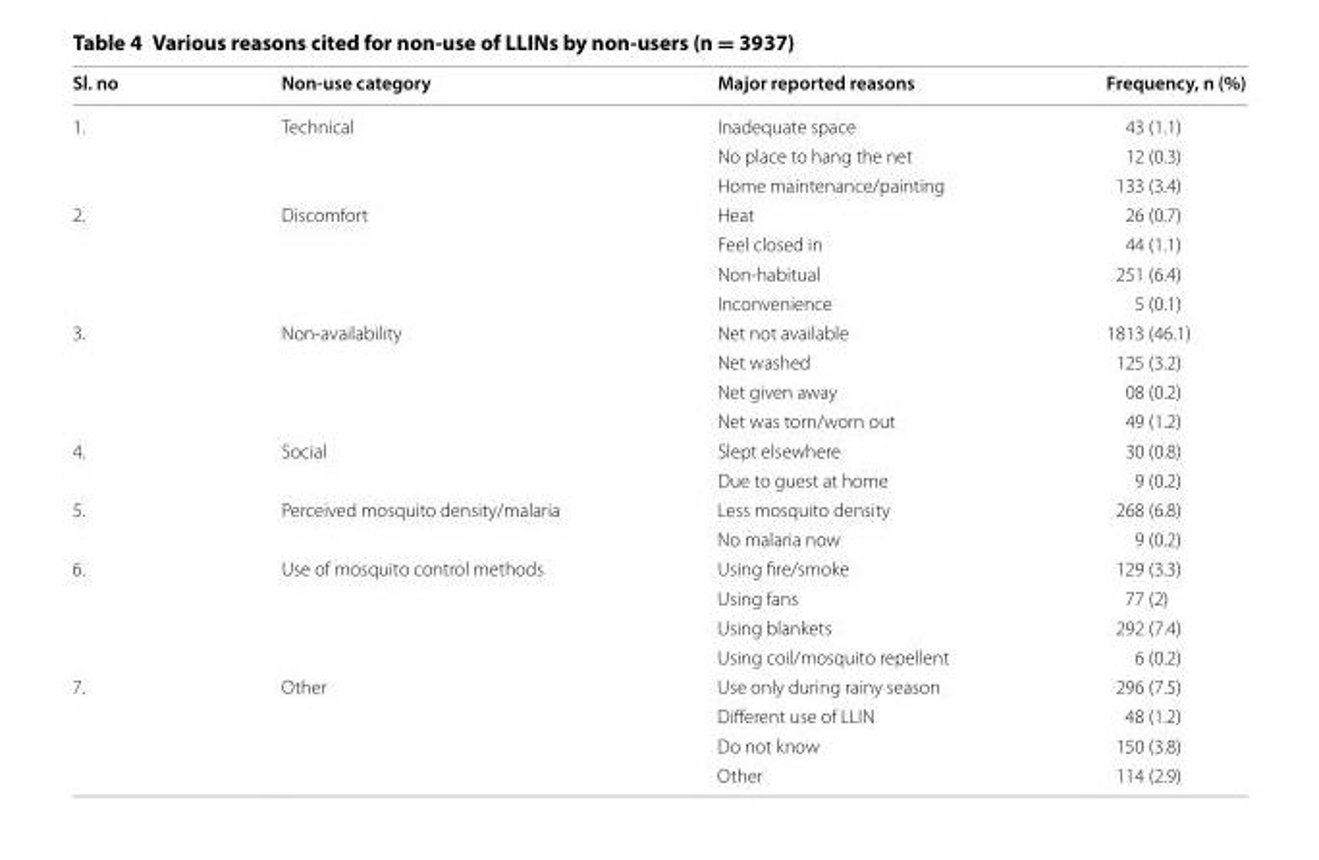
<table><thead><tr><td>Sl. no</td><td>Non‑use category</td><td>Major reported reasons</td><td>Frequency, n (%)</td></tr></thead><tbody><tr><td rowspan="3">1.</td><td rowspan="3">Technical</td><td>Inadequate space</td><td>43 (1.1)</td></tr><tr><td>No place to hang the net</td><td>12 (0.3)</td></tr><tr><td>Home maintenance/painting</td><td>133 (3.4)</td></tr><tr><td rowspan="4">2.</td><td rowspan="4">Discomfort</td><td>Heat</td><td>26 (0.7)</td></tr><tr><td>Feel closed in</td><td>44 (1.1)</td></tr><tr><td>Non-habitual</td><td>251 (6.4)</td></tr><tr><td>Inconvenience</td><td>5 (0.1)</td></tr><tr><td rowspan="4">3.</td><td rowspan="4">Non-availability</td><td>Net not available</td><td>1813 (46.1)</td></tr><tr><td>Net washed</td><td>125 (3.2)</td></tr><tr><td>Net given away</td><td>08 (0.2)</td></tr><tr><td>Net was torn/worn out</td><td>49 (1.2)</td></tr><tr><td rowspan="2">4.</td><td rowspan="2">Social</td><td>Slept elsewhere</td><td>30 (0.8)</td></tr><tr><td>Due to guest at home</td><td>9 (0.2)</td></tr><tr><td rowspan="2">5.</td><td rowspan="2">Perceived mosquito density/malaria</td><td>Less mosquito density</td><td>268 (6.8)</td></tr><tr><td>No malaria now</td><td>9 (0.2)</td></tr><tr><td rowspan="4">6.</td><td rowspan="4">Use of mosquito control methods</td><td>Using fire/smoke</td><td>129 (3.3)</td></tr><tr><td>Using fans</td><td>77 (2)</td></tr><tr><td>Using blankets</td><td>292 (7.4)</td></tr><tr><td>Using coil/mosquito repellent</td><td>6 (0.2)</td></tr><tr><td rowspan="4">7.</td><td rowspan="4">Other</td><td>Use only during rainy season</td><td>296 (7.5)</td></tr><tr><td>Different use of LLIN</td><td>48 (1.2)</td></tr><tr><td>Do not know</td><td>150 (3.8)</td></tr><tr><td>Other</td><td>114 (2.9)</td></tr></tbody></table>